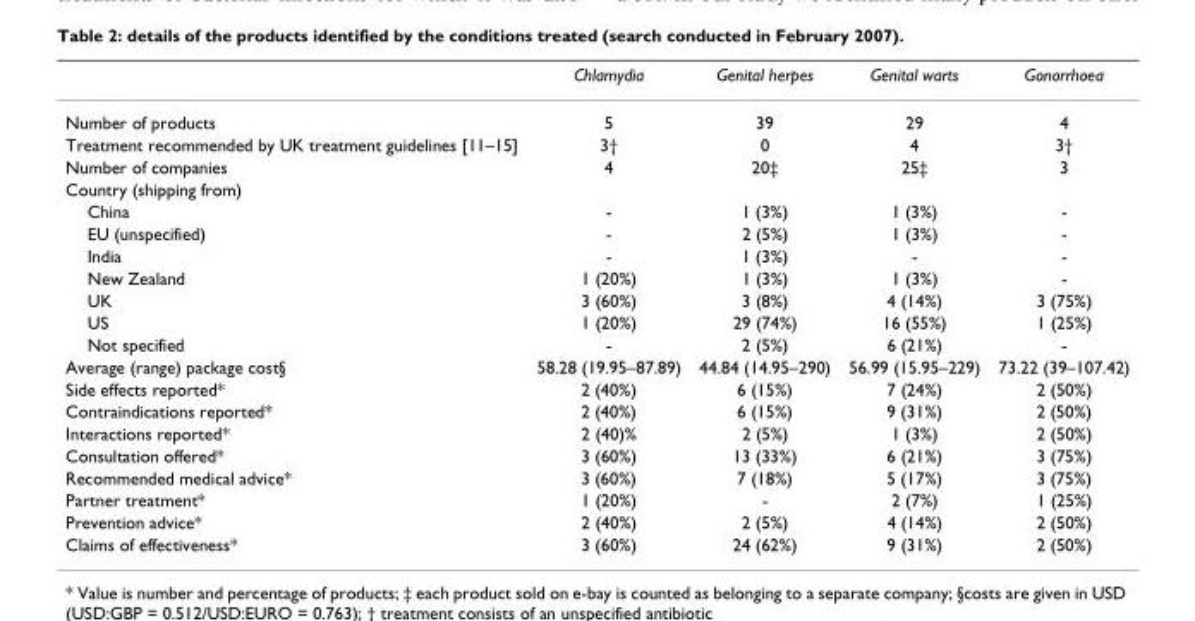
<table><thead><tr><td></td><td>Chlamydia</td><td>Genital herpes</td><td>Genital warts</td><td>Gonorrhoea</td></tr></thead><tbody><tr><td>Number of products</td><td>5</td><td>39</td><td>29</td><td>4</td></tr><tr><td>Treatment recommended by UK treatment guidelines [11–15]</td><td>3†</td><td>0</td><td>4</td><td>3†</td></tr><tr><td>Number of companies</td><td>4</td><td>20‡</td><td>25‡</td><td>3</td></tr><tr><td colspan="5">Country (shipping from)</td></tr><tr><td>China</td><td>-</td><td>1 (3%)</td><td>1 (3%)</td><td>-</td></tr><tr><td>EU (unspecified)</td><td>-</td><td>2 (5%)</td><td>1 (3%)</td><td>-</td></tr><tr><td>India</td><td>-</td><td>1 (3%)</td><td>-</td><td>-</td></tr><tr><td>New Zealand</td><td>1 (20%)</td><td>1 (3%)</td><td>1 (3%)</td><td>-</td></tr><tr><td>UK</td><td>3 (60%)</td><td>3 (8%)</td><td>4 (14%)</td><td>3 (75%)</td></tr><tr><td>US</td><td>1 (20%)</td><td>29 (74%)</td><td>16 (55%)</td><td>1 (25%)</td></tr><tr><td>Not specified</td><td>-</td><td>2 (5%)</td><td>6 (21%)</td><td>-</td></tr><tr><td>Average (range) package cost§</td><td>58.28 (19.95–87.89)</td><td>44.84 (14.95–290)</td><td>56.99 (15.95–229)</td><td>73.22 (39–107.42)</td></tr><tr><td>Side effects reported*</td><td>2 (40%)</td><td>6 (15%)</td><td>7 (24%)</td><td>2 (50%)</td></tr><tr><td>Contraindications reported*</td><td>2 (40%)</td><td>6 (15%)</td><td>9 (31%)</td><td>2 (50%)</td></tr><tr><td>Interactions reported*</td><td>2 (40)%</td><td>2 (5%)</td><td>1 (3%)</td><td>2 (50%)</td></tr><tr><td>Consultation offered*</td><td>3 (60%)</td><td>13 (33%)</td><td>6 (21%)</td><td>3 (75%)</td></tr><tr><td>Recommended medical advice*</td><td>3 (60%)</td><td>7 (18%)</td><td>5 (17%)</td><td>3 (75%)</td></tr><tr><td>Partner treatment*</td><td>1 (20%)</td><td>-</td><td>2 (7%)</td><td>1 (25%)</td></tr><tr><td>Prevention advice*</td><td>2 (40%)</td><td>2 (5%)</td><td>4 (14%)</td><td>2 (50%)</td></tr><tr><td>Claims of effectiveness*</td><td>3 (60%)</td><td>24 (62%)</td><td>9 (31%)</td><td>2 (50%)</td></tr></tbody></table>